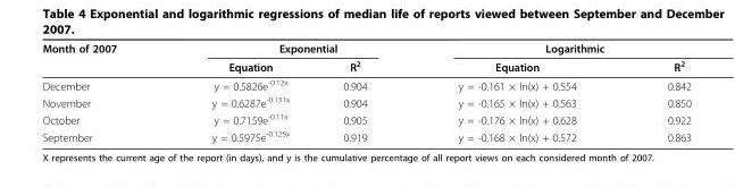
<table><thead><tr><td rowspan="2">Month of 2007</td><td colspan="2">Exponential</td><td colspan="2">Logarithmic</td></tr><tr><td>Equation</td><td>R<sup>2</sup></td><td>Equation</td><td>R<sup>2</sup></td></tr></thead><tbody><tr><td>December</td><td>y = 0.5826e<sup>-0.12x</sup></td><td>0.904</td><td>y = -0.161 × ln(x) + 0.554</td><td>0.842</td></tr><tr><td>November</td><td>y = 0.6287e<sup>-0.131x</sup></td><td>0.904</td><td>y = -0.165 × ln(x) + 0.563</td><td>0.850</td></tr><tr><td>October</td><td>y = 0.7159e<sup>-0.11x</sup></td><td>0.905</td><td>y = -0.176 × ln(x) + 0.628</td><td>0.922</td></tr><tr><td>September</td><td>y = 0.5975e<sup>-0.125x</sup></td><td>0.919</td><td>y = -0.168 × ln(x) + 0.572</td><td>0.863</td></tr></tbody></table>